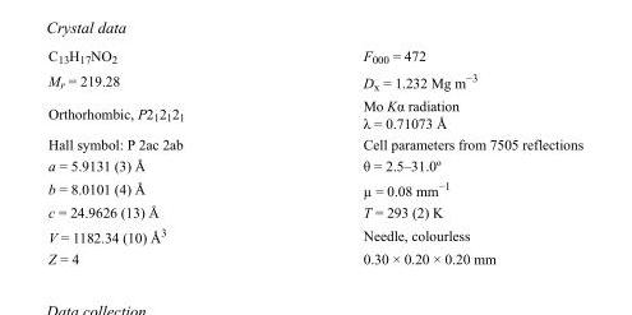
<table><tbody><tr><td>C<sub>13</sub>H<sub>17</sub>NO<sub>2</sub></td><td>F000 = 472</td></tr><tr><td>M<sub>r</sub> = 219.28</td><td>D<sub>x</sub> = 1.232 Mg m<sup>−3</sup></td></tr><tr><td>Orthorhombic, P2<sub>1</sub>2<sub>1</sub>2<sub>1</sub></td><td>Mo Kα radiation λ = 0.71073 Å</td></tr><tr><td>Hall symbol: P 2ac 2ab</td><td>Cell parameters from 7505 reflections</td></tr><tr><td>a = 5.9131 (3) Å</td><td>θ = 2.5–31.0º</td></tr><tr><td>b = 8.0101 (4) Å</td><td>µ = 0.08 mm<sup>−1</sup></td></tr><tr><td>c = 24.9626 (13) Å</td><td>T = 293 (2) K</td></tr><tr><td>V = 1182.34 (10) Å<sup>3</sup></td><td>Needle, colourless</td></tr><tr><td>Z = 4</td><td>0.30 × 0.20 × 0.20 mm</td></tr></tbody></table>